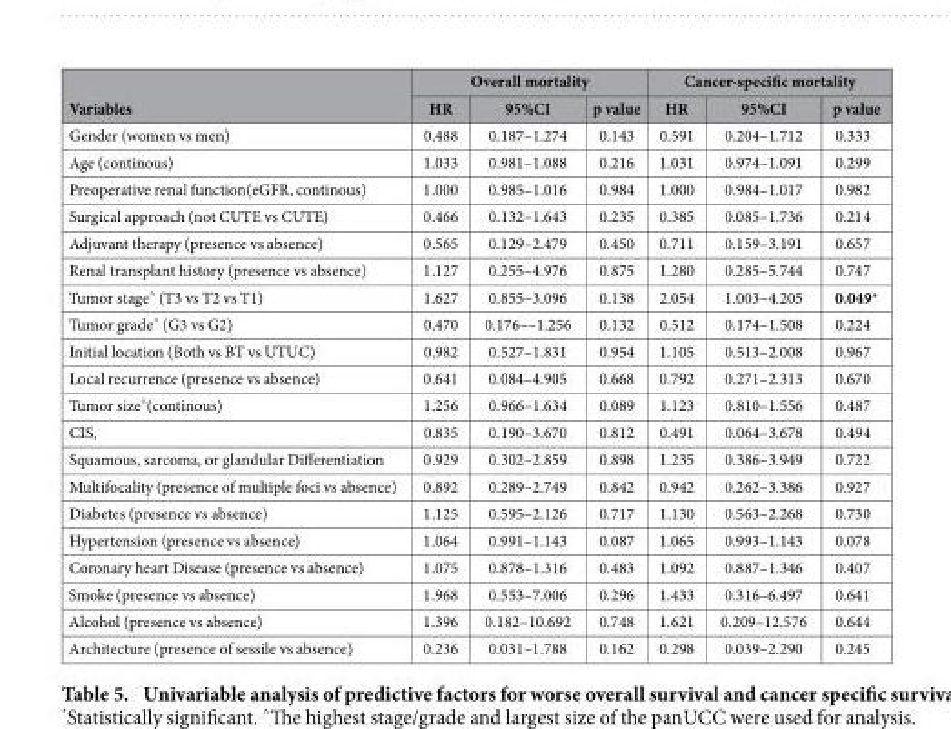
<table><thead><tr><td rowspan="2">Variables</td><td colspan="3">Overall mortality</td><td colspan="3">Cancer-specific mortality</td></tr><tr><td>HR</td><td>95%CI</td><td>p value</td><td>HR</td><td>95%CI</td><td>p value</td></tr></thead><tbody><tr><td>Gender (women vs men)</td><td>0.488</td><td>0.187–1.274</td><td>0.143</td><td>0.591</td><td>0.204–1.712</td><td>0.333</td></tr><tr><td>Age (continous)</td><td>1.033</td><td>0.981–1.088</td><td>0.216</td><td>1.031</td><td>0.974–1.091</td><td>0.299</td></tr><tr><td>Preoperative renal function(eGFR, continous)</td><td>1.000</td><td>0.985–1.016</td><td>0.984</td><td>1.000</td><td>0.984–1.017</td><td>0.982</td></tr><tr><td>Surgical approach (not CUTE vs CUTE)</td><td>0.466</td><td>0.132–1.643</td><td>0.235</td><td>0.385</td><td>0.085–1.736</td><td>0.214</td></tr><tr><td>Adjuvant therapy (presence vs absence)</td><td>0.565</td><td>0.129–2.479</td><td>0.450</td><td>0.711</td><td>0.159–3.191</td><td>0.657</td></tr><tr><td>Renal transplant history (presence vs absence)</td><td>1.127</td><td>0.255–4.976</td><td>0.875</td><td>1.280</td><td>0.285–5.744</td><td>0.747</td></tr><tr><td>Tumor stage^ (T3 vs T2 vs T1)</td><td>1.627</td><td>0.855–3.096</td><td>0.138</td><td>2.054</td><td>1.003–4.205</td><td>0.049*</td></tr><tr><td>Tumor grade^ (G3 vs G2)</td><td>0.470</td><td>0.176––1.256</td><td>0.132</td><td>0.512</td><td>0.174–1.508</td><td>0.224</td></tr><tr><td>Initial location (Both vs BT vs UTUC)</td><td>0.982</td><td>0.527–1.831</td><td>0.954</td><td>1.105</td><td>0.513–2.008</td><td>0.967</td></tr><tr><td>Local recurrence (presence vs absence)</td><td>0.641</td><td>0.084–4.905</td><td>0.668</td><td>0.792</td><td>0.271–2.313</td><td>0.670</td></tr><tr><td>Tumor size^(continous)</td><td>1.256</td><td>0.966–1.634</td><td>0.089</td><td>1.123</td><td>0.810–1.556</td><td>0.487</td></tr><tr><td>CIS,</td><td>0.835</td><td>0.190–3.670</td><td>0.812</td><td>0.491</td><td>0.064–3.678</td><td>0.494</td></tr><tr><td>Squamous, sarcoma, or glandular Differentiation</td><td>0.929</td><td>0.302–2.859</td><td>0.898</td><td>1.235</td><td>0.386–3.949</td><td>0.722</td></tr><tr><td>Multifocality (presence of multiple foci vs absence)</td><td>0.892</td><td>0.289–2.749</td><td>0.842</td><td>0.942</td><td>0.262–3.386</td><td>0.927</td></tr><tr><td>Diabetes (presence vs absence)</td><td>1.125</td><td>0.595–2.126</td><td>0.717</td><td>1.130</td><td>0.563–2.268</td><td>0.730</td></tr><tr><td>Hypertension (presence vs absence)</td><td>1.064</td><td>0.991–1.143</td><td>0.087</td><td>1.065</td><td>0.993–1.143</td><td>0.078</td></tr><tr><td>Coronary heart Disease (presence vs absence)</td><td>1.075</td><td>0.878–1.316</td><td>0.483</td><td>1.092</td><td>0.887–1.346</td><td>0.407</td></tr><tr><td>Smoke (presence vs absence)</td><td>1.968</td><td>0.553–7.006</td><td>0.296</td><td>1.433</td><td>0.316–6.497</td><td>0.641</td></tr><tr><td>Alcohol (presence vs absence)</td><td>1.396</td><td>0.182–10.692</td><td>0.748</td><td>1.621</td><td>0.209–12.576</td><td>0.644</td></tr><tr><td>Architecture (presence of sessile vs absence)</td><td>0.236</td><td>0.031–1.788</td><td>0.162</td><td>0.298</td><td>0.039–2.290</td><td>0.245</td></tr></tbody></table>